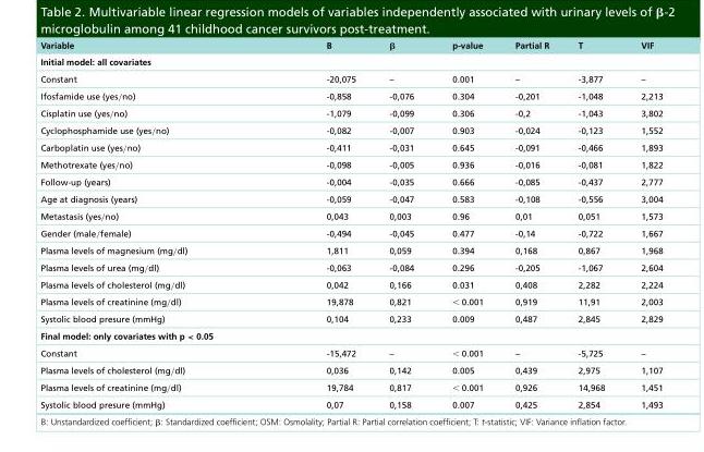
<table><thead><tr><td>Variable</td><td>B</td><td>β</td><td>p-value</td><td>Partial R</td><td>T</td><td>VIF</td></tr></thead><tbody><tr><td colspan="7">Initial model: all covariates</td></tr><tr><td>Constant</td><td>-20,075</td><td>–</td><td>0.001</td><td>–</td><td>-3,877</td><td>–</td></tr><tr><td>Ifosfamide use (yes/no)</td><td>-0,858</td><td>-0,076</td><td>0.304</td><td>-0,201</td><td>-1,048</td><td>2,213</td></tr><tr><td>Cisplatin use (yes/no)</td><td>-1,079</td><td>-0,099</td><td>0.306</td><td>-0,2</td><td>-1,043</td><td>3,802</td></tr><tr><td>Cyclophosphamide use (yes/no)</td><td>-0,082</td><td>-0,007</td><td>0.903</td><td>-0,024</td><td>-0,123</td><td>1,552</td></tr><tr><td>Carboplatin use (yes/no)</td><td>-0,411</td><td>-0,031</td><td>0.645</td><td>-0,091</td><td>-0,466</td><td>1,893</td></tr><tr><td>Methotrexate (yes/no)</td><td>-0,098</td><td>-0,005</td><td>0.936</td><td>-0,016</td><td>-0,081</td><td>1,822</td></tr><tr><td>Follow-up (years)</td><td>-0,004</td><td>-0,035</td><td>0.666</td><td>-0,085</td><td>-0,437</td><td>2,777</td></tr><tr><td>Age at diagnosis (years)</td><td>-0,059</td><td>-0,047</td><td>0.583</td><td>-0,108</td><td>-0,556</td><td>3,004</td></tr><tr><td>Metastasis (yes/no)</td><td>0,043</td><td>0,003</td><td>0.96</td><td>0,01</td><td>0,051</td><td>1,573</td></tr><tr><td>Gender (male/female)</td><td>-0,494</td><td>-0,045</td><td>0.477</td><td>-0,14</td><td>-0,722</td><td>1,667</td></tr><tr><td>Plasma levels of magnesium (mg/dl)</td><td>1,811</td><td>0,059</td><td>0.394</td><td>0,168</td><td>0,867</td><td>1,968</td></tr><tr><td>Plasma levels of urea (mg/dl)</td><td>-0,063</td><td>-0,084</td><td>0.296</td><td>-0,205</td><td>-1,067</td><td>2,604</td></tr><tr><td>Plasma levels of cholesterol (mg/dl)</td><td>0,042</td><td>0,166</td><td>0.031</td><td>0,408</td><td>2,282</td><td>2,224</td></tr><tr><td>Plasma levels of creatinine (mg/dl)</td><td>19,878</td><td>0,821</td><td>&lt; 0.001</td><td>0,919</td><td>11,91</td><td>2,003</td></tr><tr><td>Systolic blood presure (mmHg)</td><td>0,104</td><td>0,233</td><td>0.009</td><td>0,487</td><td>2,845</td><td>2,829</td></tr><tr><td colspan="7">Final model: only covariates with p &lt; 0.05</td></tr><tr><td>Constant</td><td>-15,472</td><td>–</td><td>&lt; 0.001</td><td>–</td><td>-5,725</td><td>–</td></tr><tr><td>Plasma levels of cholesterol (mg/dl)</td><td>0,036</td><td>0,142</td><td>0.005</td><td>0,439</td><td>2,975</td><td>1,107</td></tr><tr><td>Plasma levels of creatinine (mg/dl)</td><td>19,784</td><td>0,817</td><td>&lt; 0.001</td><td>0,926</td><td>14,968</td><td>1,451</td></tr><tr><td>Systolic blood presure (mmHg)</td><td>0,07</td><td>0,158</td><td>0.007</td><td>0,425</td><td>2,854</td><td>1,493</td></tr></tbody></table>